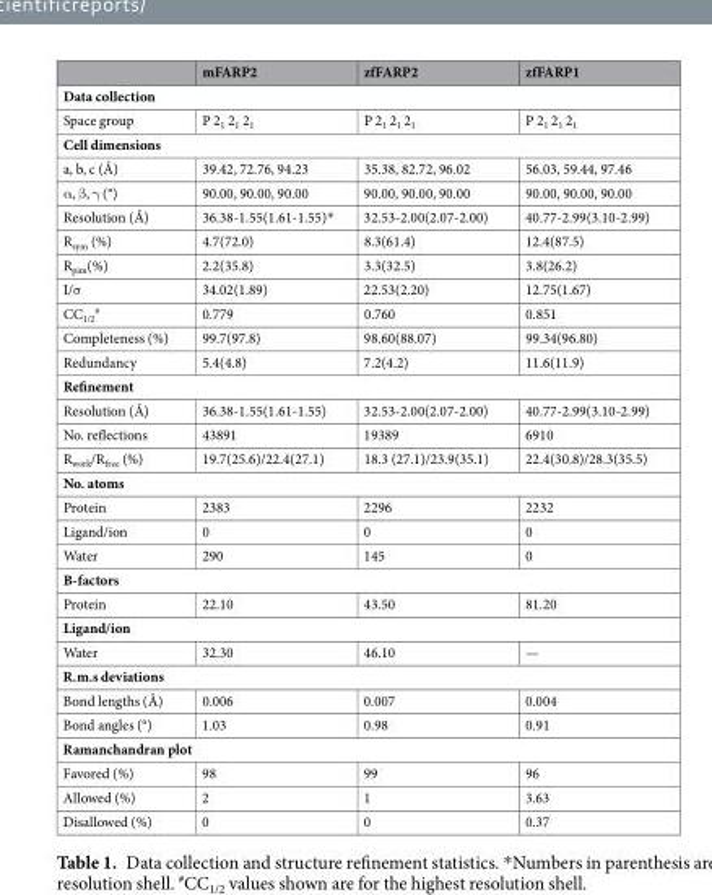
<table><thead><tr><td></td><td>mFARP2</td><td>zfFARP2</td><td>zfFARP1</td></tr></thead><tbody><tr><td colspan="4">Data collection</td></tr><tr><td>Space group</td><td>P 2<sub>1</sub> 2<sub>1</sub> 2<sub>1</sub></td><td>P 2<sub>1</sub> 2<sub>1</sub> 2<sub>1</sub></td><td>P 2<sub>1</sub> 2<sub>1</sub> 2<sub>1</sub></td></tr><tr><td colspan="4">Cell dimensions</td></tr><tr><td>a, b, c (Å)</td><td>39.42, 72.76, 94.23</td><td>35.38, 82.72, 96.02</td><td>56.03, 59.44, 97.46</td></tr><tr><td>α, β, γ (°)</td><td>90.00, 90.00, 90.00</td><td>90.00, 90.00, 90.00</td><td>90.00, 90.00, 90.00</td></tr><tr><td>Resolution (Å)</td><td>36.38-1.55(1.61-1.55)*</td><td>32.53-2.00(2.07-2.00)</td><td>40.77-2.99(3.10-2.99)</td></tr><tr><td>R<sub>sym</sub> (%)</td><td>4.7(72.0)</td><td>8.3(61.4)</td><td>12.4(87.5)</td></tr><tr><td>R<sub>pim</sub>(%)</td><td>2.2(35.8)</td><td>3.3(32.5)</td><td>3.8(26.2)</td></tr><tr><td>I/σ</td><td>34.02(1.89)</td><td>22.53(2.20)</td><td>12.75(1.67)</td></tr><tr><td>CC<sub>1/2</sub> <sup>#</sup></td><td>0.779</td><td>0.760</td><td>0.851</td></tr><tr><td>Completeness (%)</td><td>99.7(97.8)</td><td>98.60(88.07)</td><td>99.34(96.80)</td></tr><tr><td>Redundancy</td><td>5.4(4.8)</td><td>7.2(4.2)</td><td>11.6(11.9)</td></tr><tr><td colspan="4">Refinement</td></tr><tr><td>Resolution (Å)</td><td>36.38-1.55(1.61-1.55)</td><td>32.53-2.00(2.07-2.00)</td><td>40.77-2.99(3.10-2.99)</td></tr><tr><td>No. reflections</td><td>43891</td><td>19389</td><td>6910</td></tr><tr><td>R<sub>work</sub>/R<sub>free</sub> (%)</td><td>19.7(25.6)/22.4(27.1)</td><td>18.3 (27.1)/23.9(35.1)</td><td>22.4(30.8)/28.3(35.5)</td></tr><tr><td colspan="4">No. atoms</td></tr><tr><td>Protein</td><td>2383</td><td>2296</td><td>2232</td></tr><tr><td>Ligand/ion</td><td>0</td><td>0</td><td>0</td></tr><tr><td>Water</td><td>290</td><td>145</td><td>0</td></tr><tr><td colspan="4">B-factors</td></tr><tr><td>Protein</td><td>22.10</td><td>43.50</td><td>81.20</td></tr><tr><td colspan="4">Ligand/ion</td></tr><tr><td>Water</td><td>32.30</td><td>46.10</td><td>—</td></tr><tr><td colspan="4">R.m.s deviations</td></tr><tr><td>Bond lengths (Å)</td><td>0.006</td><td>0.007</td><td>0.004</td></tr><tr><td>Bond angles (°)</td><td>1.03</td><td>0.98</td><td>0.91</td></tr><tr><td colspan="4">Ramanchandran plot</td></tr><tr><td>Favored (%)</td><td>98</td><td>99</td><td>96</td></tr><tr><td>Allowed (%)</td><td>2</td><td>1</td><td>3.63</td></tr><tr><td>Disallowed (%)</td><td>0</td><td>0</td><td>0.37</td></tr></tbody></table>